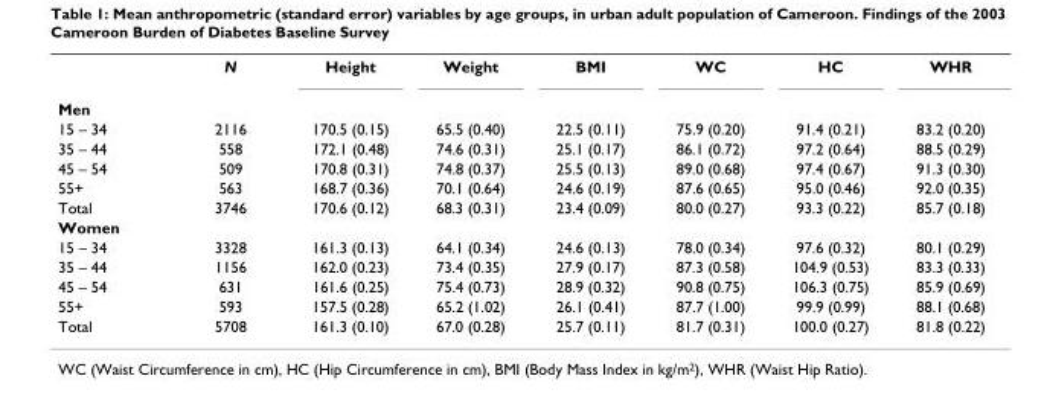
<table><thead><tr><td></td><td>N</td><td>Height</td><td>Weight</td><td>BMI</td><td>WC</td><td>HC</td><td>WHR</td></tr></thead><tbody><tr><td colspan="8">Men</td></tr><tr><td>15 – 34</td><td>2116</td><td>170.5 (0.15)</td><td>65.5 (0.40)</td><td>22.5 (0.11)</td><td>75.9 (0.20)</td><td>91.4 (0.21)</td><td>83.2 (0.20)</td></tr><tr><td>35 – 44</td><td>558</td><td>172.1 (0.48)</td><td>74.6 (0.31)</td><td>25.1 (0.17)</td><td>86.1 (0.72)</td><td>97.2 (0.64)</td><td>88.5 (0.29)</td></tr><tr><td>45 – 54</td><td>509</td><td>170.8 (0.31)</td><td>74.8 (0.37)</td><td>25.5 (0.13)</td><td>89.0 (0.68)</td><td>97.4 (0.67)</td><td>91.3 (0.30)</td></tr><tr><td>55+</td><td>563</td><td>168.7 (0.36)</td><td>70.1 (0.64)</td><td>24.6 (0.19)</td><td>87.6 (0.65)</td><td>95.0 (0.46)</td><td>92.0 (0.35)</td></tr><tr><td>Total</td><td>3746</td><td>170.6 (0.12)</td><td>68.3 (0.31)</td><td>23.4 (0.09)</td><td>80.0 (0.27)</td><td>93.3 (0.22)</td><td>85.7 (0.18)</td></tr><tr><td colspan="8">Women</td></tr><tr><td>15 – 34</td><td>3328</td><td>161.3 (0.13)</td><td>64.1 (0.34)</td><td>24.6 (0.13)</td><td>78.0 (0.34)</td><td>97.6 (0.32)</td><td>80.1 (0.29)</td></tr><tr><td>35 – 44</td><td>1156</td><td>162.0 (0.23)</td><td>73.4 (0.35)</td><td>27.9 (0.17)</td><td>87.3 (0.58)</td><td>104.9 (0.53)</td><td>83.3 (0.33)</td></tr><tr><td>45 – 54</td><td>631</td><td>161.6 (0.25)</td><td>75.4 (0.73)</td><td>28.9 (0.32)</td><td>90.8 (0.75)</td><td>106.3 (0.75)</td><td>85.9 (0.69)</td></tr><tr><td>55+</td><td>593</td><td>157.5 (0.28)</td><td>65.2 (1.02)</td><td>26.1 (0.41)</td><td>87.7 (1.00)</td><td>99.9 (0.99)</td><td>88.1 (0.68)</td></tr><tr><td>Total</td><td>5708</td><td>161.3 (0.10)</td><td>67.0 (0.28)</td><td>25.7 (0.11)</td><td>81.7 (0.31)</td><td>100.0 (0.27)</td><td>81.8 (0.22)</td></tr></tbody></table>